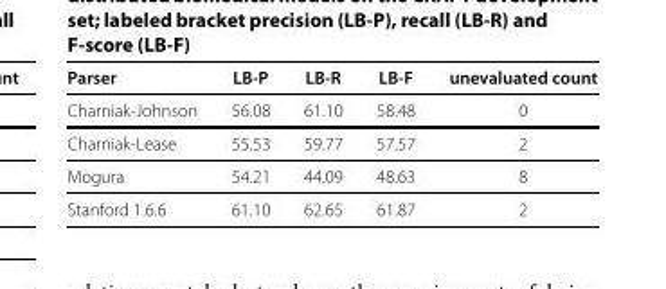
<table><thead><tr><td>Parser</td><td>LB-P</td><td>LB-R</td><td>LB-F</td><td>unevaluated count</td></tr></thead><tbody><tr><td>Charniak-Johnson</td><td>56.08</td><td>61.10</td><td>58.48</td><td>0</td></tr><tr><td>Charniak-Lease</td><td>55.53</td><td>59.77</td><td>57.57</td><td>2</td></tr><tr><td>Mogura</td><td>54.21</td><td>44.09</td><td>48.63</td><td>8</td></tr><tr><td>Stanford 1.6.6</td><td>61.10</td><td>62.65</td><td>61.87</td><td>2</td></tr></tbody></table>